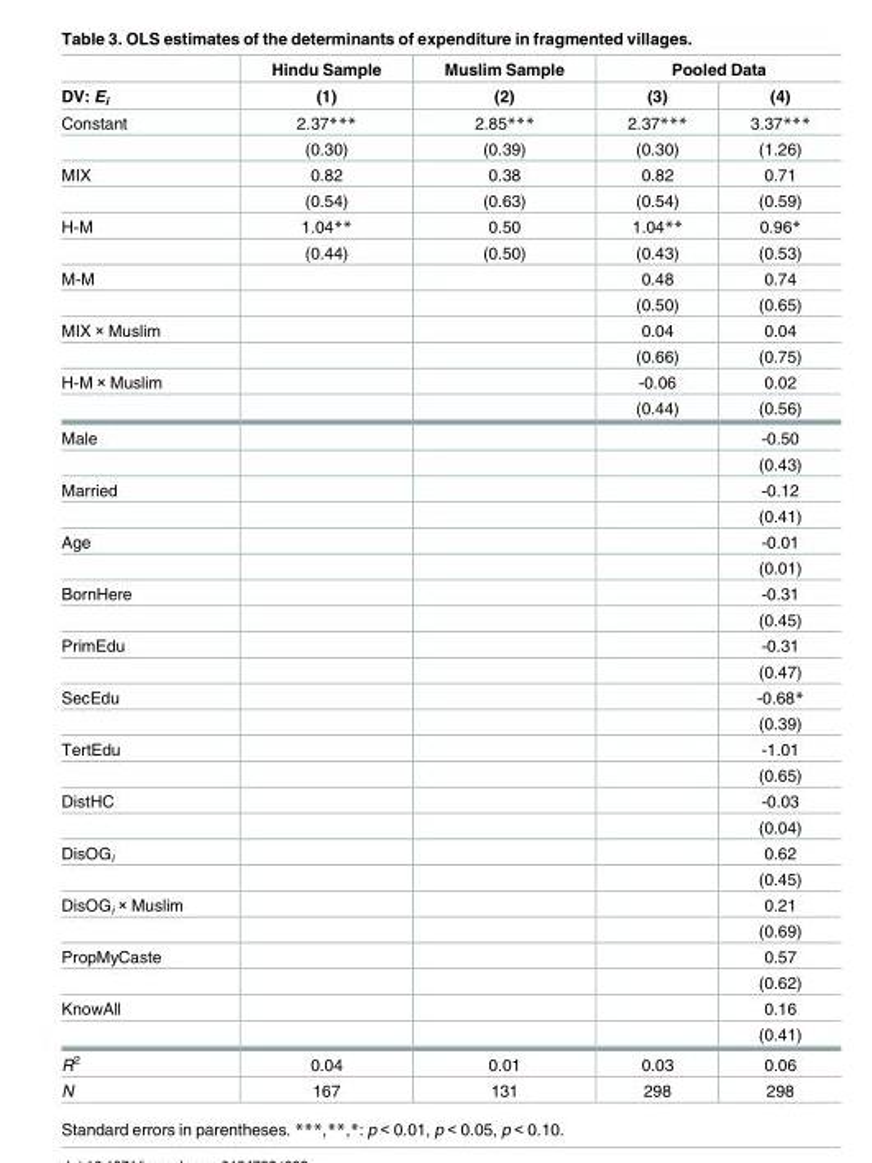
<table><thead><tr><td rowspan="2">DV: E<sub>i</sub></td><td rowspan="2">Hindu Sample (1)</td><td rowspan="2">Muslim Sample (2)</td><td colspan="2">Pooled Data</td></tr><tr><td>(3)</td><td>(4)</td></tr></thead><tbody><tr><td rowspan="2">Constant</td><td>2.37***</td><td>2.85***</td><td>2.37***</td><td>3.37***</td></tr><tr><td>(0.30)</td><td>(0.39)</td><td>(0.30)</td><td>(1.26)</td></tr><tr><td rowspan="2">MIX</td><td>0.82</td><td>0.38</td><td>0.82</td><td>0.71</td></tr><tr><td>(0.54)</td><td>(0.63)</td><td>(0.54)</td><td>(0.59)</td></tr><tr><td rowspan="2">H-M</td><td>1.04**</td><td>0.50</td><td>1.04**</td><td>0.96*</td></tr><tr><td>(0.44)</td><td>(0.50)</td><td>(0.43)</td><td>(0.53)</td></tr><tr><td rowspan="2">M-M</td><td></td><td></td><td>0.48</td><td>0.74</td></tr><tr><td></td><td></td><td>(0.50)</td><td>(0.65)</td></tr><tr><td rowspan="2">MIX × Muslim</td><td></td><td></td><td>0.04</td><td>0.04</td></tr><tr><td></td><td></td><td>(0.66)</td><td>(0.75)</td></tr><tr><td rowspan="2">H-M × Muslim</td><td></td><td></td><td>-0.06</td><td>0.02</td></tr><tr><td></td><td></td><td>(0.44)</td><td>(0.56)</td></tr><tr><td rowspan="2">Male</td><td></td><td></td><td></td><td>-0.50</td></tr><tr><td></td><td></td><td></td><td>(0.43)</td></tr><tr><td rowspan="2">Married</td><td></td><td></td><td></td><td>-0.12</td></tr><tr><td></td><td></td><td></td><td>(0.41)</td></tr><tr><td rowspan="2">Age</td><td></td><td></td><td></td><td>-0.01</td></tr><tr><td></td><td></td><td></td><td>(0.01)</td></tr><tr><td rowspan="2">BornHere</td><td></td><td></td><td></td><td>-0.31</td></tr><tr><td></td><td></td><td></td><td>(0.45)</td></tr><tr><td rowspan="2">PrimEdu</td><td></td><td></td><td></td><td>-0.31</td></tr><tr><td></td><td></td><td></td><td>(0.47)</td></tr><tr><td rowspan="2">SecEdu</td><td></td><td></td><td></td><td>-0.68*</td></tr><tr><td></td><td></td><td></td><td>(0.39)</td></tr><tr><td rowspan="2">TertEdu</td><td></td><td></td><td></td><td>-1.01</td></tr><tr><td></td><td></td><td></td><td>(0.65)</td></tr><tr><td rowspan="2">DistHC</td><td></td><td></td><td></td><td>-0.03</td></tr><tr><td></td><td></td><td></td><td>(0.04)</td></tr><tr><td rowspan="2">DisOG<sub>i</sub></td><td></td><td></td><td></td><td>0.62</td></tr><tr><td></td><td></td><td></td><td>(0.45)</td></tr><tr><td rowspan="2">DisOG<sub>i</sub> × Muslim</td><td></td><td></td><td></td><td>0.21</td></tr><tr><td></td><td></td><td></td><td>(0.69)</td></tr><tr><td rowspan="2">PropMyCaste</td><td></td><td></td><td></td><td>0.57</td></tr><tr><td></td><td></td><td></td><td>(0.62)</td></tr><tr><td rowspan="2">KnowAll</td><td></td><td></td><td></td><td>0.16</td></tr><tr><td></td><td></td><td></td><td>(0.41)</td></tr><tr><td>R<sup>2</sup></td><td>0.04</td><td>0.01</td><td>0.03</td><td>0.06</td></tr><tr><td>N</td><td>167</td><td>131</td><td>298</td><td>298</td></tr></tbody></table>